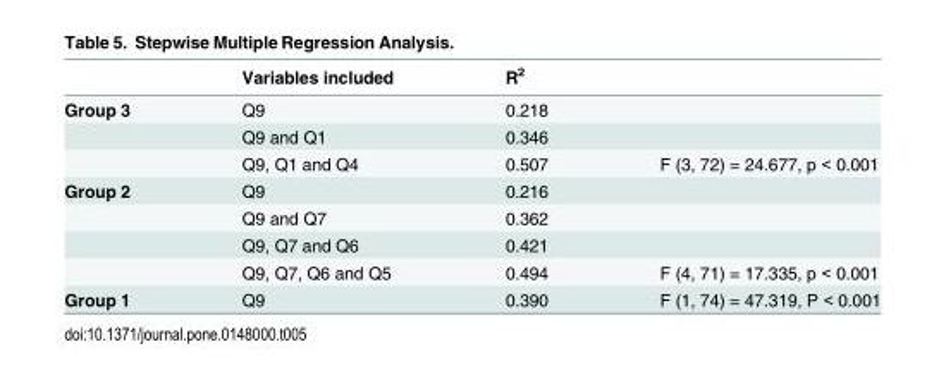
<table><thead><tr><td></td><td>Variables included</td><td>R<sup>2</sup></td><td></td></tr></thead><tbody><tr><td rowspan="3">Group 3</td><td>Q9</td><td>0.218</td><td></td></tr><tr><td>Q9 and Q1</td><td>0.346</td><td></td></tr><tr><td>Q9, Q1 and Q4</td><td>0.507</td><td>F (3, 72) = 24.677, p &lt; 0.001</td></tr><tr><td rowspan="4">Group 2</td><td>Q9</td><td>0.216</td><td></td></tr><tr><td>Q9 and Q7</td><td>0.362</td><td></td></tr><tr><td>Q9, Q7 and Q6</td><td>0.421</td><td></td></tr><tr><td>Q9, Q7, Q6 and Q5</td><td>0.494</td><td>F (4, 71) = 17.335, p &lt; 0.001</td></tr><tr><td>Group 1</td><td>Q9</td><td>0.390</td><td>F (1, 74) = 47.319, P &lt; 0.001</td></tr></tbody></table>